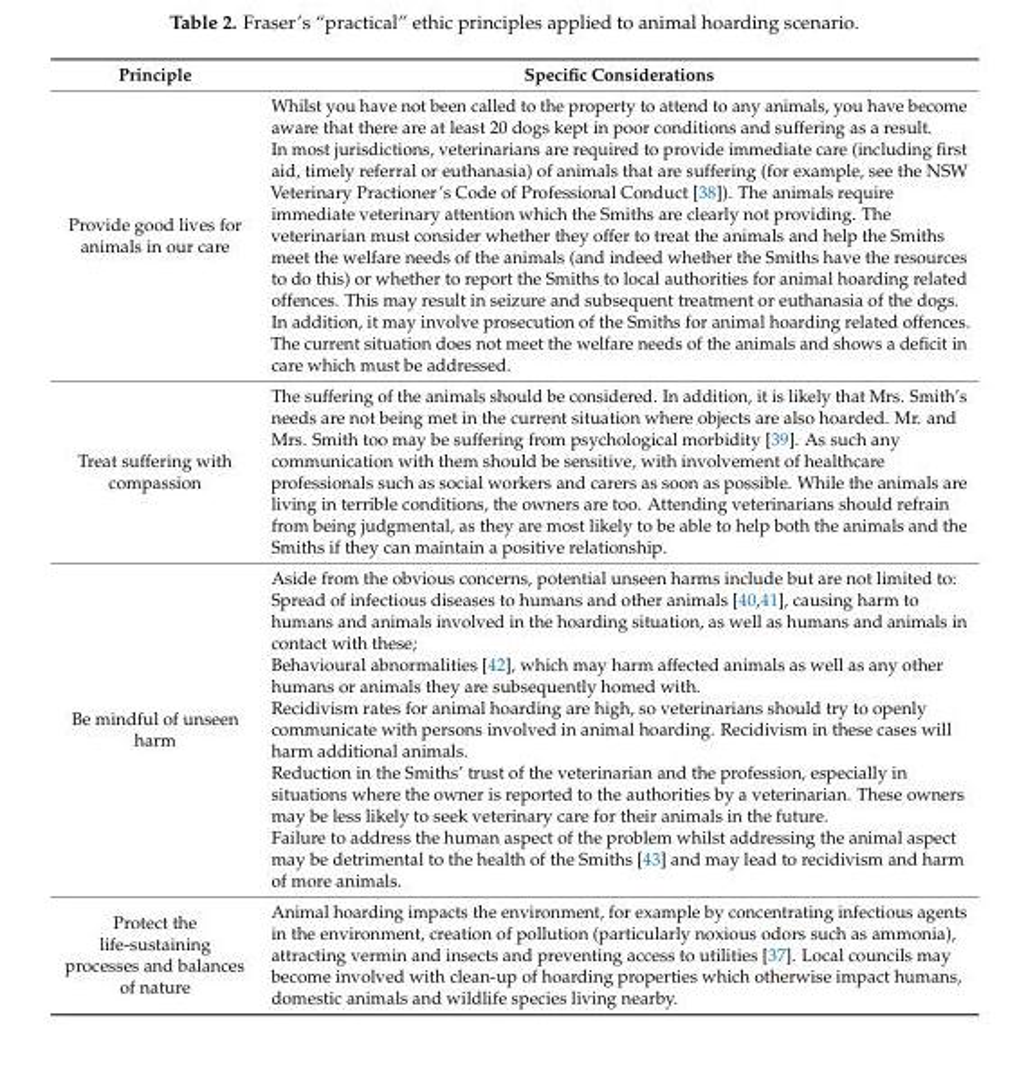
<table><thead><tr><td>Principle</td><td>Specific Considerations</td></tr></thead><tbody><tr><td>Provide good lives for animals in our care</td><td>Whilst you have not been called to the property to attend to any animals, you have become aware that there are at least 20 dogs kept in poor conditions and suffering as a result. In most jurisdictions, veterinarians are required to provide immediate care (including first aid, timely referral or euthanasia) of animals that are suffering (for example, see the NSW Veterinary Practioner’s Code of Professional Conduct [38]). The animals require immediate veterinary attention which the Smiths are clearly not providing. The veterinarian must consider whether they offer to treat the animals and help the Smiths meet the welfare needs of the animals (and indeed whether the Smiths have the resources to do this) or whether to report the Smiths to local authorities for animal hoarding related offences. This may result in seizure and subsequent treatment or euthanasia of the dogs. In addition, it may involve prosecution of the Smiths for animal hoarding related offences. The current situation does not meet the welfare needs of the animals and shows a deficit in care which must be addressed.</td></tr><tr><td>Treat suffering with compassion</td><td>The suffering of the animals should be considered. In addition, it is likely that Mrs. Smith’s needs are not being met in the current situation where objects are also hoarded. Mr. and Mrs. Smith too may be suffering from psychological morbidity [39]. As such any communication with them should be sensitive, with involvement of healthcare professionals such as social workers and carers as soon as possible. While the animals are living in terrible conditions, the owners are too. Attending veterinarians should refrain from being judgmental, as they are most likely to be able to help both the animals and the Smiths if they can maintain a positive relationship.</td></tr><tr><td>Be mindful of unseen harm</td><td>Aside from the obvious concerns, potential unseen harms include but are not limited to: Spread of infectious diseases to humans and other animals [40,41], causing harm to humans and animals involved in the hoarding situation, as well as humans and animals in contact with these; Behavioural abnormalities [42], which may harm affected animals as well as any other humans or animals they are subsequently homed with. Recidivism rates for animal hoarding are high, so veterinarians should try to openly communicate with persons involved in animal hoarding. Recidivism in these cases will harm additional animals. Reduction in the Smiths’ trust of the veterinarian and the profession, especially in situations where the owner is reported to the authorities by a veterinarian. These owners may be less likely to seek veterinary care for their animals in the future. Failure to address the human aspect of the problem whilst addressing the animal aspect may be detrimental to the health of the Smiths [43] and may lead to recidivism and harm of more animals.</td></tr><tr><td>Protect the life-sustaining processes and balances of nature</td><td>Animal hoarding impacts the environment, for example by concentrating infectious agents in the environment, creation of pollution (particularly noxious odors such as ammonia), attracting vermin and insects and preventing access to utilities [37]. Local councils may become involved with clean-up of hoarding properties which otherwise impact humans, domestic animals and wildlife species living nearby.</td></tr></tbody></table>